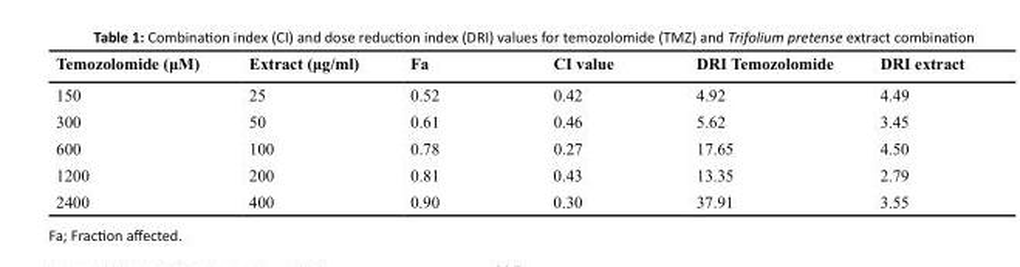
<table><thead><tr><td>Temozolomide (μM)</td><td>Extract (μg/ml)</td><td>Fa</td><td>CI value</td><td>DRI Temozolomide</td><td>DRI extract</td></tr></thead><tbody><tr><td>150</td><td>25</td><td>0.52</td><td>0.42</td><td>4.92</td><td>4.49</td></tr><tr><td>300</td><td>50</td><td>0.61</td><td>0.46</td><td>5.62</td><td>3.45</td></tr><tr><td>600</td><td>100</td><td>0.78</td><td>0.27</td><td>17.65</td><td>4.50</td></tr><tr><td>1200</td><td>200</td><td>0.81</td><td>0.43</td><td>13.35</td><td>2.79</td></tr><tr><td>2400</td><td>400</td><td>0.90</td><td>0.30</td><td>37.91</td><td>3.55</td></tr></tbody></table>